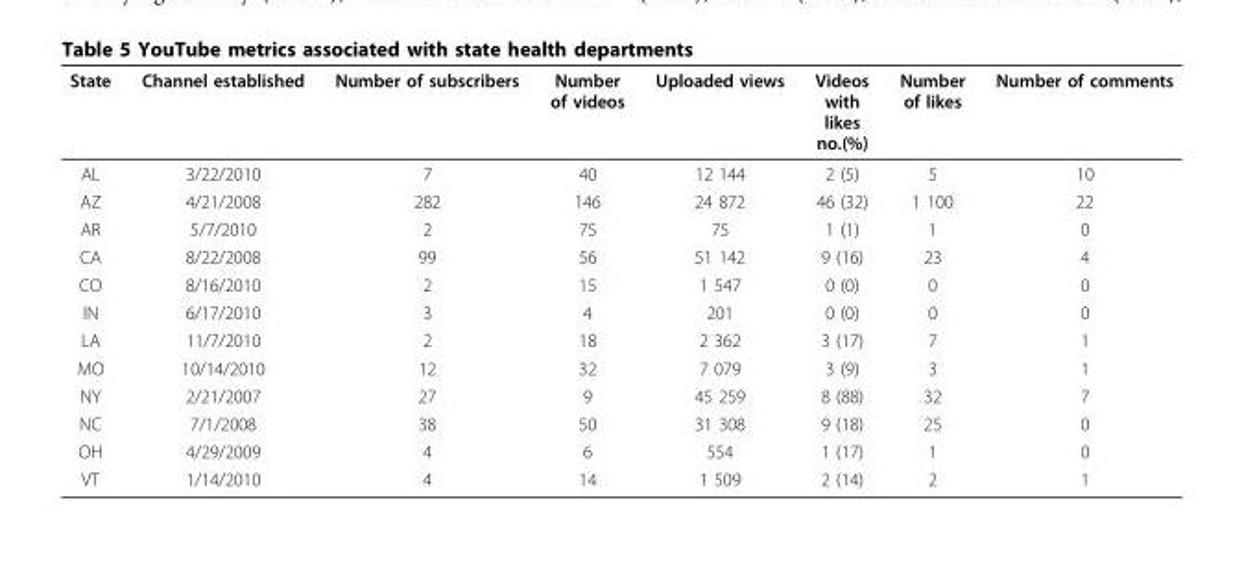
<table><thead><tr><td>State</td><td>Channel established</td><td>Number of subscribers</td><td>Number of videos</td><td>Uploaded views</td><td>Videos with likes no.(%)</td><td>Number of likes</td><td>Number of comments</td></tr></thead><tbody><tr><td>AL</td><td>3/22/2010</td><td>7</td><td>40</td><td>12 144</td><td>2 (5)</td><td>5</td><td>10</td></tr><tr><td>AZ</td><td>4/21/2008</td><td>282</td><td>146</td><td>24 872</td><td>46 (32)</td><td>1 100</td><td>22</td></tr><tr><td>AR</td><td>5/7/2010</td><td>2</td><td>75</td><td>75</td><td>1 (1)</td><td>1</td><td>0</td></tr><tr><td>CA</td><td>8/22/2008</td><td>99</td><td>56</td><td>51 142</td><td>9 (16)</td><td>23</td><td>4</td></tr><tr><td>CO</td><td>8/16/2010</td><td>2</td><td>15</td><td>1 547</td><td>0 (0)</td><td>0</td><td>0</td></tr><tr><td>IN</td><td>6/17/2010</td><td>3</td><td>4</td><td>201</td><td>0 (0)</td><td>0</td><td>0</td></tr><tr><td>LA</td><td>11/7/2010</td><td>2</td><td>18</td><td>2 362</td><td>3 (17)</td><td>7</td><td>1</td></tr><tr><td>MO</td><td>10/14/2010</td><td>12</td><td>32</td><td>7 079</td><td>3 (9)</td><td>3</td><td>1</td></tr><tr><td>NY</td><td>2/21/2007</td><td>27</td><td>9</td><td>45 259</td><td>8 (88)</td><td>32</td><td>7</td></tr><tr><td>NC</td><td>7/1/2008</td><td>38</td><td>50</td><td>31 308</td><td>9 (18)</td><td>25</td><td>0</td></tr><tr><td>OH</td><td>4/29/2009</td><td>4</td><td>6</td><td>554</td><td>1 (17)</td><td>1</td><td>0</td></tr><tr><td>VT</td><td>1/14/2010</td><td>4</td><td>14</td><td>1 509</td><td>2 (14)</td><td>2</td><td>1</td></tr></tbody></table>